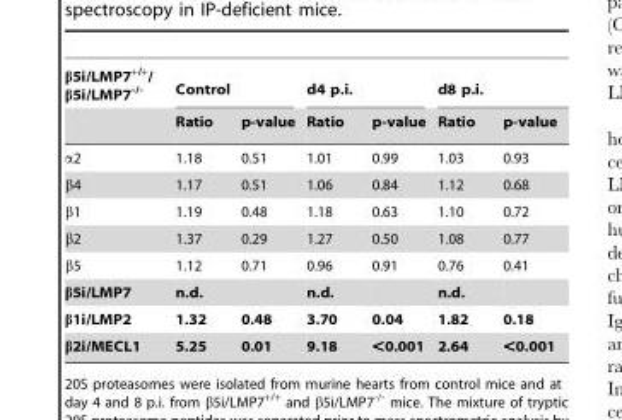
<table><thead><tr><td rowspan="2">β5i/LMP7<sup>+/+</sup>/ β5i/LMP7<sup>-/-</sup></td><td colspan="2">Control</td><td colspan="2">d4 p.i.</td><td colspan="2">d8 p.i.</td></tr><tr><td>Ratio</td><td>p-value</td><td>Ratio</td><td>p-value</td><td>Ratio</td><td>p-value</td></tr></thead><tbody><tr><td>α2</td><td>1.18</td><td>0.51</td><td>1.01</td><td>0.99</td><td>1.03</td><td>0.93</td></tr><tr><td>β4</td><td>1.17</td><td>0.51</td><td>1.06</td><td>0.84</td><td>1.12</td><td>0.68</td></tr><tr><td>β1</td><td>1.19</td><td>0.48</td><td>1.18</td><td>0.63</td><td>1.10</td><td>0.72</td></tr><tr><td>β2</td><td>1.37</td><td>0.29</td><td>1.27</td><td>0.50</td><td>1.08</td><td>0.77</td></tr><tr><td>β5</td><td>1.12</td><td>0.71</td><td>0.96</td><td>0.91</td><td>0.76</td><td>0.41</td></tr><tr><td>β5i/LMP7</td><td>n.d.</td><td></td><td>n.d.</td><td></td><td>n.d.</td><td></td></tr><tr><td>β1i/LMP2</td><td>1.32</td><td>0.48</td><td>3.70</td><td>0.04</td><td>1.82</td><td>0.18</td></tr><tr><td>β2i/MECL1</td><td>5.25</td><td>0.01</td><td>9.18</td><td>&lt;0.001</td><td>2.64</td><td>&lt;0.001</td></tr></tbody></table>